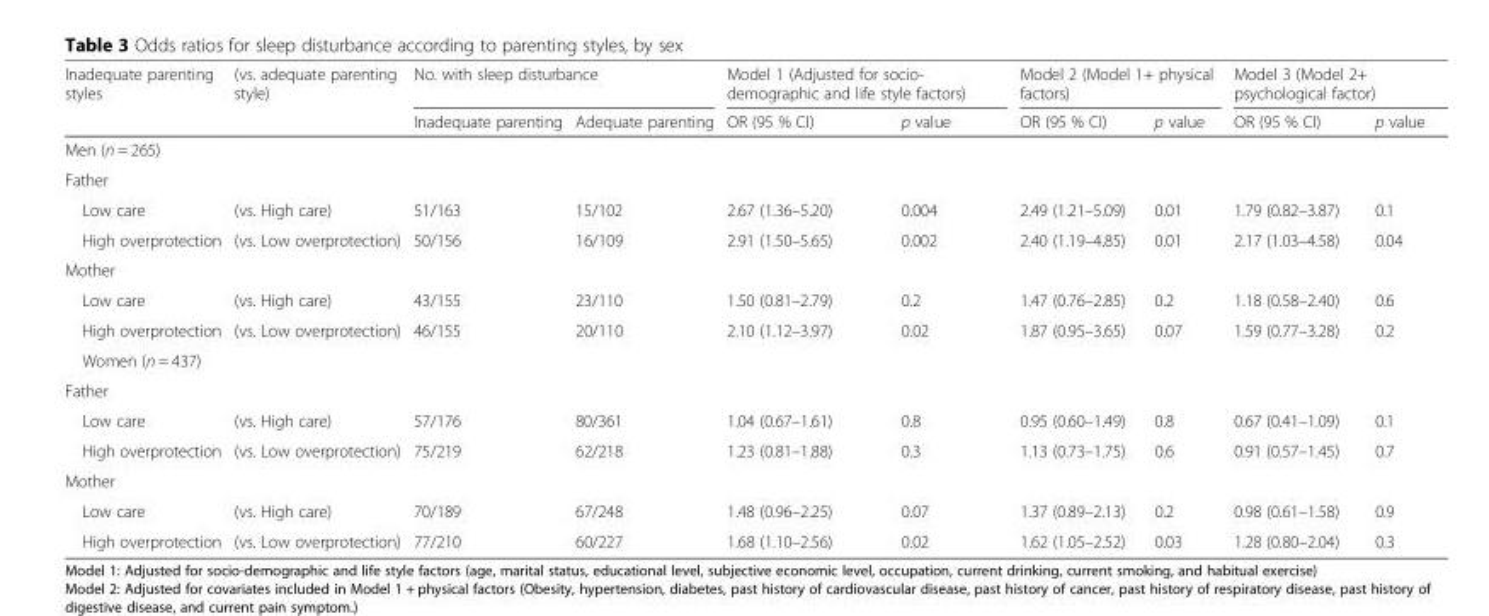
<table><thead><tr><td rowspan="2">Inadequate parenting styles</td><td rowspan="2">(vs. adequate parenting style)</td><td colspan="2">No. with sleep disturbance</td><td colspan="2">Model 1 (Adjusted for socio- demographic and life style factors)</td><td colspan="2">Model 2 (Model 1+ physical factors)</td><td colspan="2">Model 3 (Model 2+ psychological factor)</td></tr><tr><td>Inadequate parenting</td><td>Adequate parenting</td><td>OR (95 % CI)</td><td>p value</td><td>OR (95 % CI)</td><td>p value</td><td>OR (95 % CI)</td><td>p value</td></tr></thead><tbody><tr><td colspan="10">Men (n = 265)</td></tr><tr><td colspan="10">Father</td></tr><tr><td>Low care</td><td>(vs. High care)</td><td>51/163</td><td>15/102</td><td>2.67 (1.36–5.20)</td><td>0.004</td><td>2.49 (1.21–5.09)</td><td>0.01</td><td>1.79 (0.82–3.87)</td><td>0.1</td></tr><tr><td>High overprotection</td><td>(vs. Low overprotection)</td><td>50/156</td><td>16/109</td><td>2.91 (1.50–5.65)</td><td>0.002</td><td>2.40 (1.19–4.85)</td><td>0.01</td><td>2.17 (1.03–4.58)</td><td>0.04</td></tr><tr><td colspan="10">Mother</td></tr><tr><td>Low care</td><td>(vs. High care)</td><td>43/155</td><td>23/110</td><td>1.50 (0.81–2.79)</td><td>0.2</td><td>1.47 (0.76–2.85)</td><td>0.2</td><td>1.18 (0.58–2.40)</td><td>0.6</td></tr><tr><td>High overprotection</td><td>(vs. Low overprotection)</td><td>46/155</td><td>20/110</td><td>2.10 (1.12–3.97)</td><td>0.02</td><td>1.87 (0.95–3.65)</td><td>0.07</td><td>1.59 (0.77–3.28)</td><td>0.2</td></tr><tr><td colspan="10">Women (n = 437)</td></tr><tr><td colspan="10">Father</td></tr><tr><td>Low care</td><td>(vs. High care)</td><td>57/176</td><td>80/361</td><td>1.04 (0.67–1.61)</td><td>0.8</td><td>0.95 (0.60–1.49)</td><td>0.8</td><td>0.67 (0.41–1.09)</td><td>0.1</td></tr><tr><td>High overprotection</td><td>(vs. Low overprotection)</td><td>75/219</td><td>62/218</td><td>1.23 (0.81–1.88)</td><td>0.3</td><td>1.13 (0.73–1.75)</td><td>0.6</td><td>0.91 (0.57–1.45)</td><td>0.7</td></tr><tr><td colspan="10">Mother</td></tr><tr><td>Low care</td><td>(vs. High care)</td><td>70/189</td><td>67/248</td><td>1.48 (0.96–2.25)</td><td>0.07</td><td>1.37 (0.89–2.13)</td><td>0.2</td><td>0.98 (0.61–1.58)</td><td>0.9</td></tr><tr><td>High overprotection</td><td>(vs. Low overprotection)</td><td>77/210</td><td>60/227</td><td>1.68 (1.10–2.56)</td><td>0.02</td><td>1.62 (1.05–2.52)</td><td>0.03</td><td>1.28 (0.80–2.04)</td><td>0.3</td></tr></tbody></table>